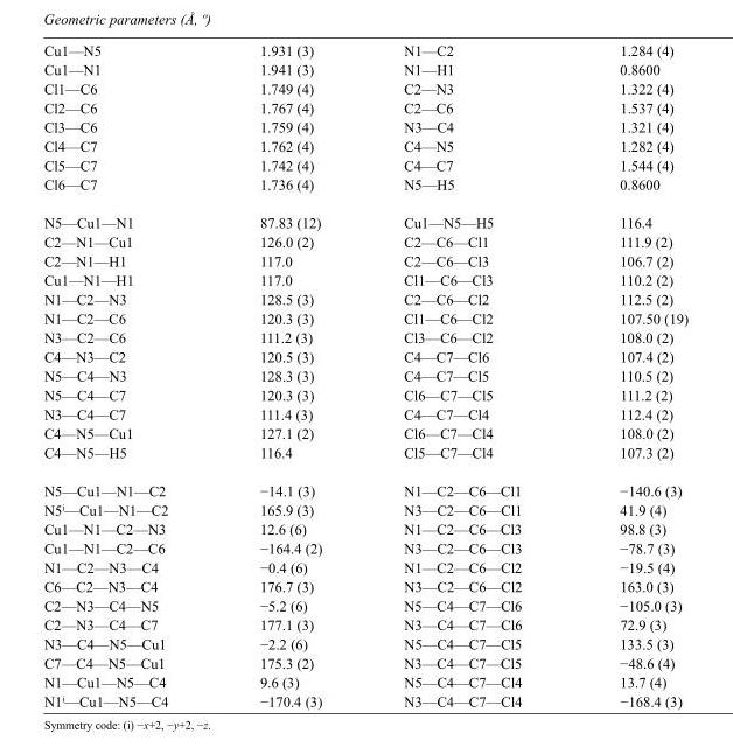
<table><tbody><tr><td>Cu1—N5</td><td>1.931 (3)</td><td>N1—C2</td><td>1.284 (4)</td></tr><tr><td>Cu1—N1</td><td>1.941 (3)</td><td>N1—H1</td><td>0.8600</td></tr><tr><td>Cl1—C6</td><td>1.749 (4)</td><td>C2—N3</td><td>1.322 (4)</td></tr><tr><td>Cl2—C6</td><td>1.767 (4)</td><td>C2—C6</td><td>1.537 (4)</td></tr><tr><td>Cl3—C6</td><td>1.759 (4)</td><td>N3—C4</td><td>1.321 (4)</td></tr><tr><td>Cl4—C7</td><td>1.762 (4)</td><td>C4—N5</td><td>1.282 (4)</td></tr><tr><td>Cl5—C7</td><td>1.742 (4)</td><td>C4—C7</td><td>1.544 (4)</td></tr><tr><td>Cl6—C7</td><td>1.736 (4)</td><td>N5—H5</td><td>0.8600</td></tr><tr><td>N5—Cu1—N1</td><td>87.83 (12)</td><td>Cu1—N5—H5</td><td>116.4</td></tr><tr><td>C2—N1—Cu1</td><td>126.0 (2)</td><td>C2—C6—Cl1</td><td>111.9 (2)</td></tr><tr><td>C2—N1—H1</td><td>117.0</td><td>C2—C6—Cl3</td><td>106.7 (2)</td></tr><tr><td>Cu1—N1—H1</td><td>117.0</td><td>Cl1—C6—Cl3</td><td>110.2 (2)</td></tr><tr><td>N1—C2—N3</td><td>128.5 (3)</td><td>C2—C6—Cl2</td><td>112.5 (2)</td></tr><tr><td>N1—C2—C6</td><td>120.3 (3)</td><td>Cl1—C6—Cl2</td><td>107.50 (19)</td></tr><tr><td>N3—C2—C6</td><td>111.2 (3)</td><td>Cl3—C6—Cl2</td><td>108.0 (2)</td></tr><tr><td>C4—N3—C2</td><td>120.5 (3)</td><td>C4—C7—Cl6</td><td>107.4 (2)</td></tr><tr><td>N5—C4—N3</td><td>128.3 (3)</td><td>C4—C7—Cl5</td><td>110.5 (2)</td></tr><tr><td>N5—C4—C7</td><td>120.3 (3)</td><td>Cl6—C7—Cl5</td><td>111.2 (2)</td></tr><tr><td>N3—C4—C7</td><td>111.4 (3)</td><td>C4—C7—Cl4</td><td>112.4 (2)</td></tr><tr><td>C4—N5—Cu1</td><td>127.1 (2)</td><td>Cl6—C7—Cl4</td><td>108.0 (2)</td></tr><tr><td>C4—N5—H5</td><td>116.4</td><td>Cl5—C7—Cl4</td><td>107.3 (2)</td></tr><tr><td>N5—Cu1—N1—C2</td><td>−14.1 (3)</td><td>N1—C2—C6—Cl1</td><td>−140.6 (3)</td></tr><tr><td>N5<sup>i</sup>—Cu1—N1—C2</td><td>165.9 (3)</td><td>N3—C2—C6—Cl1</td><td>41.9 (4)</td></tr><tr><td>Cu1—N1—C2—N3</td><td>12.6 (6)</td><td>N1—C2—C6—Cl3</td><td>98.8 (3)</td></tr><tr><td>Cu1—N1—C2—C6</td><td>−164.4 (2)</td><td>N3—C2—C6—Cl3</td><td>−78.7 (3)</td></tr><tr><td>N1—C2—N3—C4</td><td>−0.4 (6)</td><td>N1—C2—C6—Cl2</td><td>−19.5 (4)</td></tr><tr><td>C6—C2—N3—C4</td><td>176.7 (3)</td><td>N3—C2—C6—Cl2</td><td>163.0 (3)</td></tr><tr><td>C2—N3—C4—N5</td><td>−5.2 (6)</td><td>N5—C4—C7—Cl6</td><td>−105.0 (3)</td></tr><tr><td>C2—N3—C4—C7</td><td>177.1 (3)</td><td>N3—C4—C7—Cl6</td><td>72.9 (3)</td></tr><tr><td>N3—C4—N5—Cu1</td><td>−2.2 (6)</td><td>N5—C4—C7—Cl5</td><td>133.5 (3)</td></tr><tr><td>C7—C4—N5—Cu1</td><td>175.3 (2)</td><td>N3—C4—C7—Cl5</td><td>−48.6 (4)</td></tr><tr><td>N1—Cu1—N5—C4</td><td>9.6 (3)</td><td>N5—C4—C7—Cl4</td><td>13.7 (4)</td></tr><tr><td>N1<sup>i</sup>—Cu1—N5—C4</td><td>−170.4 (3)</td><td>N3—C4—C7—Cl4</td><td>−168.4 (3)</td></tr></tbody></table>